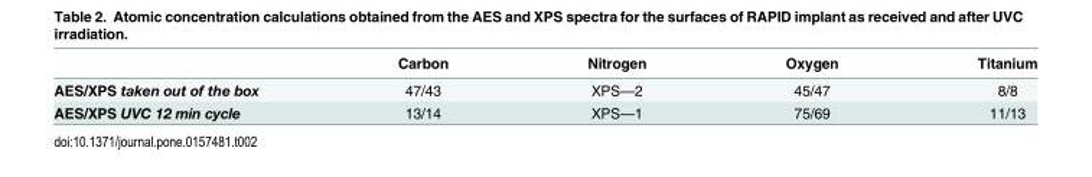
<table><thead><tr><td></td><td>Carbon</td><td>Nitrogen</td><td>Oxygen</td><td>Titanium</td></tr></thead><tbody><tr><td>AES/XPS taken out of the box</td><td>47/43</td><td>XPS—2</td><td>45/47</td><td>8/8</td></tr><tr><td>AES/XPS UVC 12 min cycle</td><td>13/14</td><td>XPS—1</td><td>75/69</td><td>11/13</td></tr></tbody></table>